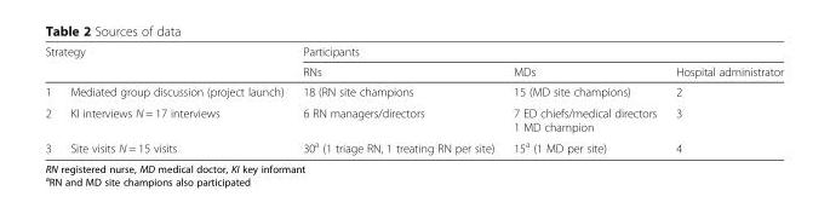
<table><thead><tr><td rowspan="2" colspan="2">Strategy</td><td colspan="3">Participants</td></tr><tr><td rowspan="2">RNs 18 (RN site champions</td><td rowspan="2">MDs 15 (MD site champions)</td><td rowspan="2">Hospital administrator 2</td></tr><tr><td>1</td><td>Mediated group discussion (project launch)</td></tr></thead><tbody><tr><td>2</td><td>KI interviews N = 17 interviews</td><td>6 RN managers/directors</td><td>7 ED chiefs/medical directors 1 MD champion</td><td>3</td></tr><tr><td>3</td><td>Site visits N = 15 visits</td><td>30<sup>a</sup> (1 triage RN, 1 treating RN per site)</td><td>15<sup>a</sup> (1 MD per site)</td><td>4</td></tr></tbody></table>